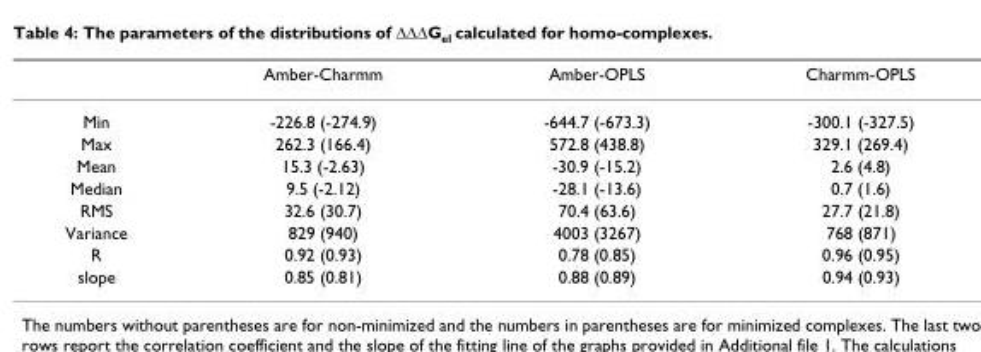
<table><thead><tr><td></td><td>Amber-Charmm</td><td>Amber-OPLS</td><td>Charmm-OPLS</td></tr></thead><tbody><tr><td>Min</td><td>-226.8 (-274.9)</td><td>-644.7 (-673.3)</td><td>-300.1 (-327.5)</td></tr><tr><td>Max</td><td>262.3 (166.4)</td><td>572.8 (438.8)</td><td>329.1 (269.4)</td></tr><tr><td>Mean</td><td>15.3 (-2.63)</td><td>-30.9 (-15.2)</td><td>2.6 (4.8)</td></tr><tr><td>Median</td><td>9.5 (-2.12)</td><td>-28.1 (-13.6)</td><td>0.7 (1.6)</td></tr><tr><td>RMS</td><td>32.6 (30.7)</td><td>70.4 (63.6)</td><td>27.7 (21.8)</td></tr><tr><td>Variance</td><td>829 (940)</td><td>4003 (3267)</td><td>768 (871)</td></tr><tr><td>R</td><td>0.92 (0.93)</td><td>0.78 (0.85)</td><td>0.96 (0.95)</td></tr><tr><td>slope</td><td>0.85 (0.81)</td><td>0.88 (0.89)</td><td>0.94 (0.93)</td></tr></tbody></table>